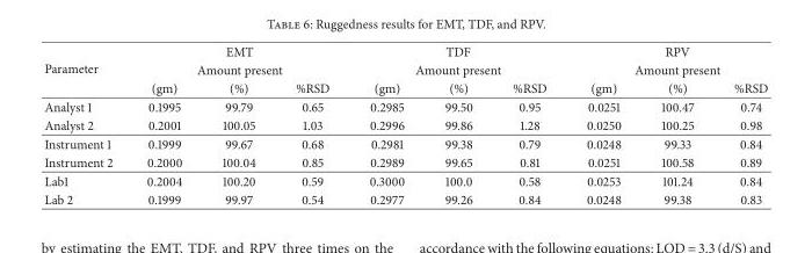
<table><thead><tr><td rowspan="3">Parameter</td><td rowspan="2" colspan="3">EMT Amount present</td><td rowspan="2" colspan="3">TDF Amount present</td><td rowspan="2" colspan="3">RPV Amount present</td></tr><tr></tr><tr><td>(gm)</td><td>(%)</td><td>%RSD</td><td>(gm)</td><td>(%)</td><td>%RSD</td><td>(gm)</td><td>(%)</td><td>%RSD</td></tr></thead><tbody><tr><td>Analyst 1</td><td>0.1995</td><td>99.79</td><td>0.65</td><td>0.2985</td><td>99.50</td><td>0.95</td><td>0.0251</td><td>100.47</td><td>0.74</td></tr><tr><td>Analyst 2</td><td>0.2001</td><td>100.05</td><td>1.03</td><td>0.2996</td><td>99.86</td><td>1.28</td><td>0.0250</td><td>100.25</td><td>0.98</td></tr><tr><td>Instrument 1</td><td>0.1999</td><td>99.67</td><td>0.68</td><td>0.2981</td><td>99.38</td><td>0.79</td><td>0.0248</td><td>99.33</td><td>0.84</td></tr><tr><td>Instrument 2</td><td>0.2000</td><td>100.04</td><td>0.85</td><td>0.2989</td><td>99.65</td><td>0.81</td><td>0.0251</td><td>100.58</td><td>0.89</td></tr><tr><td>Lab1</td><td>0.2004</td><td>100.20</td><td>0.59</td><td>0.3000</td><td>100.0</td><td>0.58</td><td>0.0253</td><td>101.24</td><td>0.84</td></tr><tr><td>Lab 2</td><td>0.1999</td><td>99.97</td><td>0.54</td><td>0.2977</td><td>99.26</td><td>0.84</td><td>0.0248</td><td>99.38</td><td>0.83</td></tr></tbody></table>